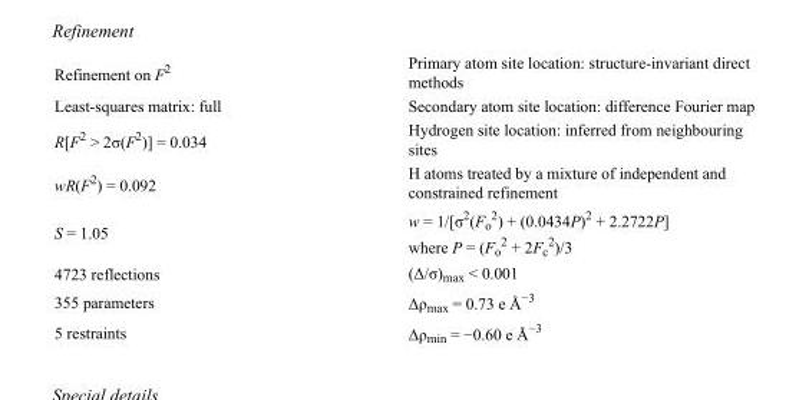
<table><tbody><tr><td>Refinement on F<sup>2</sup></td><td>Primary atom site location: structure-invariant direct methods</td></tr><tr><td>Least-squares matrix: full</td><td>Secondary atom site location: difference Fourier map</td></tr><tr><td>R[F<sup>2</sup> &gt; 2σ(F<sup>2</sup>)] = 0.034</td><td>Hydrogen site location: inferred from neighbouring sites</td></tr><tr><td>wR(F<sup>2</sup>) = 0.092</td><td>H atoms treated by a mixture of independent and constrained refinement</td></tr><tr><td>S = 1.05</td><td>w = 1/[σ<sup>2</sup>(F<sub>o</sub> <sup>2</sup>) + (0.0434P)<sup>2</sup> + 2.2722P] where P = (F<sub>o</sub> <sup>2</sup> + 2F<sub>c</sub> <sup>2</sup>)/3</td></tr><tr><td>4723 reflections</td><td>(Δ/σ)<sub>max</sub> &lt; 0.001</td></tr><tr><td>355 parameters</td><td>Δρ<sub>max</sub> = 0.73 e Å<sup>−3</sup></td></tr><tr><td>5 restraints</td><td>Δρmin = −0.60 e Å−3</td></tr></tbody></table>